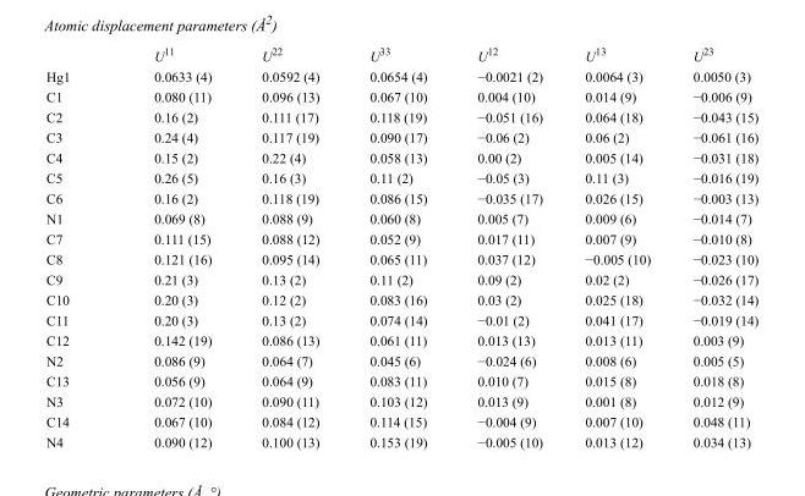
<table><thead><tr><td></td><td>U<sup>11</sup></td><td>U<sup>22</sup></td><td>U<sup>33</sup></td><td>U<sup>12</sup></td><td>U<sup>13</sup></td><td>U<sup>23</sup></td></tr></thead><tbody><tr><td>Hg1</td><td>0.0633 (4)</td><td>0.0592 (4)</td><td>0.0654 (4)</td><td>−0.0021 (2)</td><td>0.0064 (3)</td><td>0.0050 (3)</td></tr><tr><td>C1</td><td>0.080 (11)</td><td>0.096 (13)</td><td>0.067 (10)</td><td>0.004 (10)</td><td>0.014 (9)</td><td>−0.006 (9)</td></tr><tr><td>C2</td><td>0.16 (2)</td><td>0.111 (17)</td><td>0.118 (19)</td><td>−0.051 (16)</td><td>0.064 (18)</td><td>−0.043 (15)</td></tr><tr><td>C3</td><td>0.24 (4)</td><td>0.117 (19)</td><td>0.090 (17)</td><td>−0.06 (2)</td><td>0.06 (2)</td><td>−0.061 (16)</td></tr><tr><td>C4</td><td>0.15 (2)</td><td>0.22 (4)</td><td>0.058 (13)</td><td>0.00 (2)</td><td>0.005 (14)</td><td>−0.031 (18)</td></tr><tr><td>C5</td><td>0.26 (5)</td><td>0.16 (3)</td><td>0.11 (2)</td><td>−0.05 (3)</td><td>0.11 (3)</td><td>−0.016 (19)</td></tr><tr><td>C6</td><td>0.16 (2)</td><td>0.118 (19)</td><td>0.086 (15)</td><td>−0.035 (17)</td><td>0.026 (15)</td><td>−0.003 (13)</td></tr><tr><td>N1</td><td>0.069 (8)</td><td>0.088 (9)</td><td>0.060 (8)</td><td>0.005 (7)</td><td>0.009 (6)</td><td>−0.014 (7)</td></tr><tr><td>C7</td><td>0.111 (15)</td><td>0.088 (12)</td><td>0.052 (9)</td><td>0.017 (11)</td><td>0.007 (9)</td><td>−0.010 (8)</td></tr><tr><td>C8</td><td>0.121 (16)</td><td>0.095 (14)</td><td>0.065 (11)</td><td>0.037 (12)</td><td>−0.005 (10)</td><td>−0.023 (10)</td></tr><tr><td>C9</td><td>0.21 (3)</td><td>0.13 (2)</td><td>0.11 (2)</td><td>0.09 (2)</td><td>0.02 (2)</td><td>−0.026 (17)</td></tr><tr><td>C10</td><td>0.20 (3)</td><td>0.12 (2)</td><td>0.083 (16)</td><td>0.03 (2)</td><td>0.025 (18)</td><td>−0.032 (14)</td></tr><tr><td>C11</td><td>0.20 (3)</td><td>0.13 (2)</td><td>0.074 (14)</td><td>−0.01 (2)</td><td>0.041 (17)</td><td>−0.019 (14)</td></tr><tr><td>C12</td><td>0.142 (19)</td><td>0.086 (13)</td><td>0.061 (11)</td><td>0.013 (13)</td><td>0.013 (11)</td><td>0.003 (9)</td></tr><tr><td>N2</td><td>0.086 (9)</td><td>0.064 (7)</td><td>0.045 (6)</td><td>−0.024 (6)</td><td>0.008 (6)</td><td>0.005 (5)</td></tr><tr><td>C13</td><td>0.056 (9)</td><td>0.064 (9)</td><td>0.083 (11)</td><td>0.010 (7)</td><td>0.015 (8)</td><td>0.018 (8)</td></tr><tr><td>N3</td><td>0.072 (10)</td><td>0.090 (11)</td><td>0.103 (12)</td><td>0.013 (9)</td><td>0.001 (8)</td><td>0.012 (9)</td></tr><tr><td>C14</td><td>0.067 (10)</td><td>0.084 (12)</td><td>0.114 (15)</td><td>−0.004 (9)</td><td>0.007 (10)</td><td>0.048 (11)</td></tr><tr><td>N4</td><td>0.090 (12)</td><td>0.100 (13)</td><td>0.153 (19)</td><td>−0.005 (10)</td><td>0.013 (12)</td><td>0.034 (13)</td></tr></tbody></table>